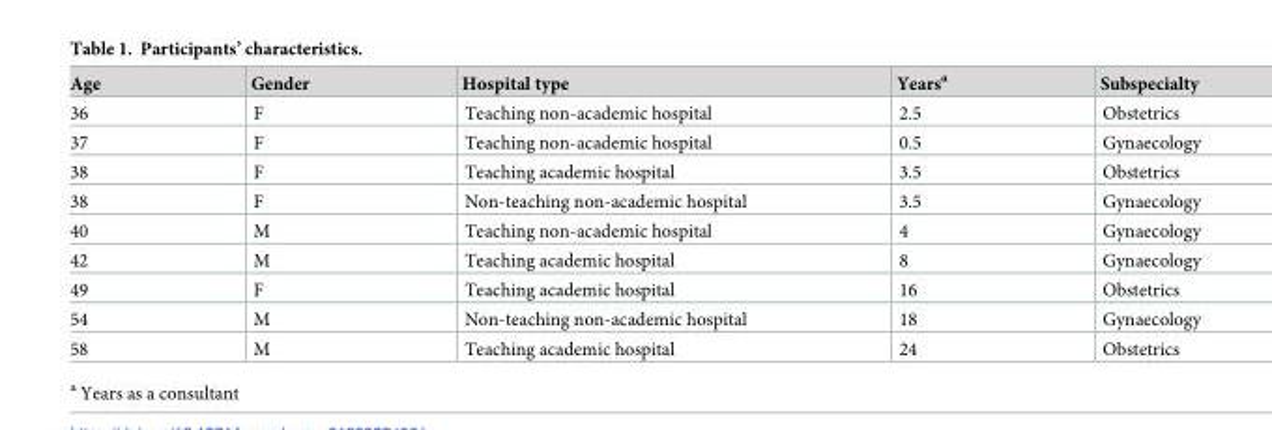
<table><thead><tr><td>Age</td><td>Gender</td><td>Hospital type</td><td>Years<sup>a</sup></td><td>Subspecialty</td></tr></thead><tbody><tr><td>36</td><td>F</td><td>Teaching non-academic hospital</td><td>2.5</td><td>Obstetrics</td></tr><tr><td>37</td><td>F</td><td>Teaching non-academic hospital</td><td>0.5</td><td>Gynaecology</td></tr><tr><td>38</td><td>F</td><td>Teaching academic hospital</td><td>3.5</td><td>Obstetrics</td></tr><tr><td>38</td><td>F</td><td>Non-teaching non-academic hospital</td><td>3.5</td><td>Gynaecology</td></tr><tr><td>40</td><td>M</td><td>Teaching non-academic hospital</td><td>4</td><td>Gynaecology</td></tr><tr><td>42</td><td>M</td><td>Teaching academic hospital</td><td>8</td><td>Gynaecology</td></tr><tr><td>49</td><td>F</td><td>Teaching academic hospital</td><td>16</td><td>Obstetrics</td></tr><tr><td>54</td><td>M</td><td>Non-teaching non-academic hospital</td><td>18</td><td>Gynaecology</td></tr><tr><td>58</td><td>M</td><td>Teaching academic hospital</td><td>24</td><td>Obstetrics</td></tr></tbody></table>